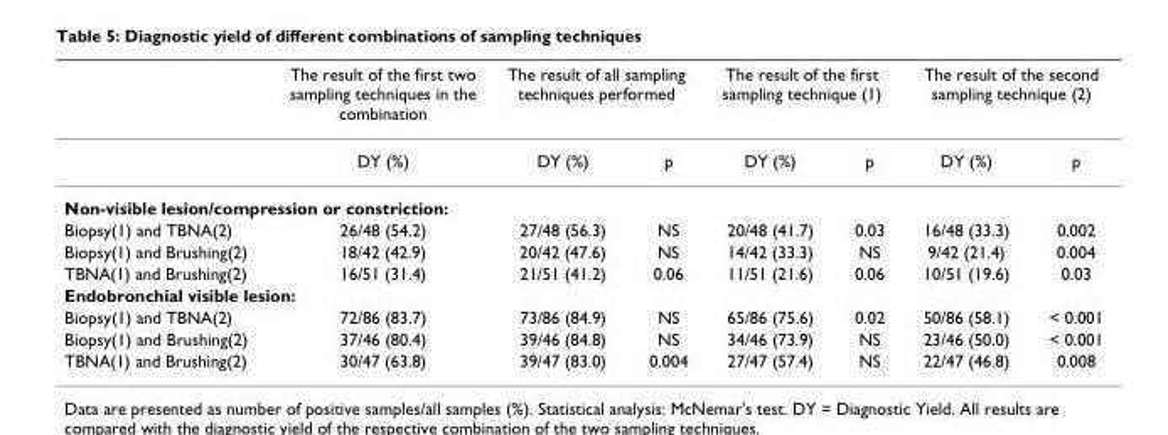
<table><thead><tr><td rowspan="2"></td><td rowspan="2">The result of the first two sampling techniques in the combination DY (%)</td><td colspan="2">The result of all sampling techniques performed</td><td colspan="2">The result of the first sampling technique (1)</td><td colspan="2">The result of the second sampling technique (2)</td></tr><tr><td>DY (%)</td><td>p</td><td>DY (%)</td><td>p</td><td>DY (%)</td><td>p</td></tr></thead><tbody><tr><td colspan="8">Non-visible lesion/compression or constriction:</td></tr><tr><td>Biopsy(1) and TBNA(2)</td><td>26/48 (54.2)</td><td>27/48 (56.3)</td><td>NS</td><td>20/48 (41.7)</td><td>0.03</td><td>16/48 (33.3)</td><td>0.002</td></tr><tr><td>Biopsy(1) and Brushing(2)</td><td>18/42 (42.9)</td><td>20/42 (47.6)</td><td>NS</td><td>14/42 (33.3)</td><td>NS</td><td>9/42 (21.4)</td><td>0.004</td></tr><tr><td>TBNA(1) and Brushing(2)</td><td>16/51 (31.4)</td><td>21/51 (41.2)</td><td>0.06</td><td>11/51 (21.6)</td><td>0.06</td><td>10/51 (19.6)</td><td>0.03</td></tr><tr><td colspan="8">Endobronchial visible lesion:</td></tr><tr><td>Biopsy(1) and TBNA(2)</td><td>72/86 (83.7)</td><td>73/86 (84.9)</td><td>NS</td><td>65/86 (75.6)</td><td>0.02</td><td>50/86 (58.1)</td><td>&lt; 0.001</td></tr><tr><td>Biopsy(1) and Brushing(2)</td><td>37/46 (80.4)</td><td>39/46 (84.8)</td><td>NS</td><td>34/46 (73.9)</td><td>NS</td><td>23/46 (50.0)</td><td>&lt; 0.001</td></tr><tr><td>TBNA(1) and Brushing(2)</td><td>30/47 (63.8)</td><td>39/47 (83.0)</td><td>0.004</td><td>27/47 (57.4)</td><td>NS</td><td>22/47 (46.8)</td><td>0.008</td></tr></tbody></table>